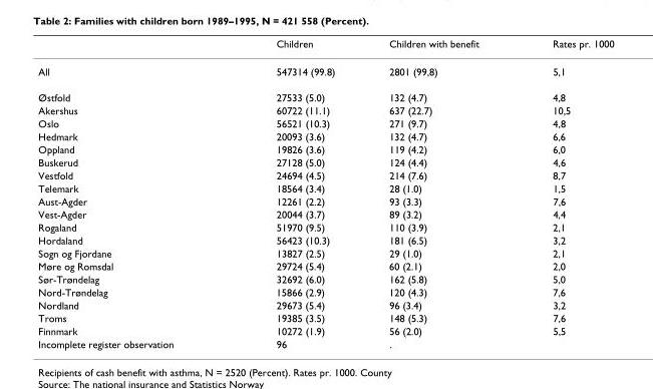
<table><thead><tr><td></td><td>Children</td><td>Children with benefit</td><td>Rates pr. 1000</td></tr></thead><tbody><tr><td>All</td><td>547314 (99.8)</td><td>2801 (99,8)</td><td>5,1</td></tr><tr><td>Østfold</td><td>27533 (5.0)</td><td>132 (4.7)</td><td>4,8</td></tr><tr><td>Akershus</td><td>60722 (11.1)</td><td>637 (22.7)</td><td>10,5</td></tr><tr><td>Oslo</td><td>56521 (10.3)</td><td>271 (9.7)</td><td>4,8</td></tr><tr><td>Hedmark</td><td>20093 (3.6)</td><td>132 (4.7)</td><td>6,6</td></tr><tr><td>Oppland</td><td>19826 (3.6)</td><td>119 (4.2)</td><td>6,0</td></tr><tr><td>Buskerud</td><td>27128 (5.0)</td><td>124 (4.4)</td><td>4,6</td></tr><tr><td>Vestfold</td><td>24694 (4.5)</td><td>214 (7.6)</td><td>8,7</td></tr><tr><td>Telemark</td><td>18564 (3.4)</td><td>28 (1.0)</td><td>1,5</td></tr><tr><td>Aust-Agder</td><td>12261 (2.2)</td><td>93 (3.3)</td><td>7,6</td></tr><tr><td>Vest-Agder</td><td>20044 (3.7)</td><td>89 (3.2)</td><td>4,4</td></tr><tr><td>Rogaland</td><td>51970 (9.5)</td><td>110 (3.9)</td><td>2,1</td></tr><tr><td>Hordaland</td><td>56423 (10.3)</td><td>181 (6.5)</td><td>3,2</td></tr><tr><td>Sogn og Fjordane</td><td>13827 (2.5)</td><td>29 (1.0)</td><td>2,1</td></tr><tr><td>Møre og Romsdal</td><td>29724 (5.4)</td><td>60 (2.1)</td><td>2,0</td></tr><tr><td>Sør-Trøndelag</td><td>32692 (6.0)</td><td>162 (5.8)</td><td>5,0</td></tr><tr><td>Nord-Trøndelag</td><td>15866 (2.9)</td><td>120 (4.3)</td><td>7,6</td></tr><tr><td>Nordland</td><td>29673 (5.4)</td><td>96 (3.4)</td><td>3,2</td></tr><tr><td>Troms</td><td>19385 (3.5)</td><td>148 (5.3)</td><td>7,6</td></tr><tr><td>Finnmark</td><td>10272 (1.9)</td><td>56 (2.0)</td><td>5,5</td></tr><tr><td>Incomplete register observation</td><td>96</td><td>.</td><td></td></tr></tbody></table>